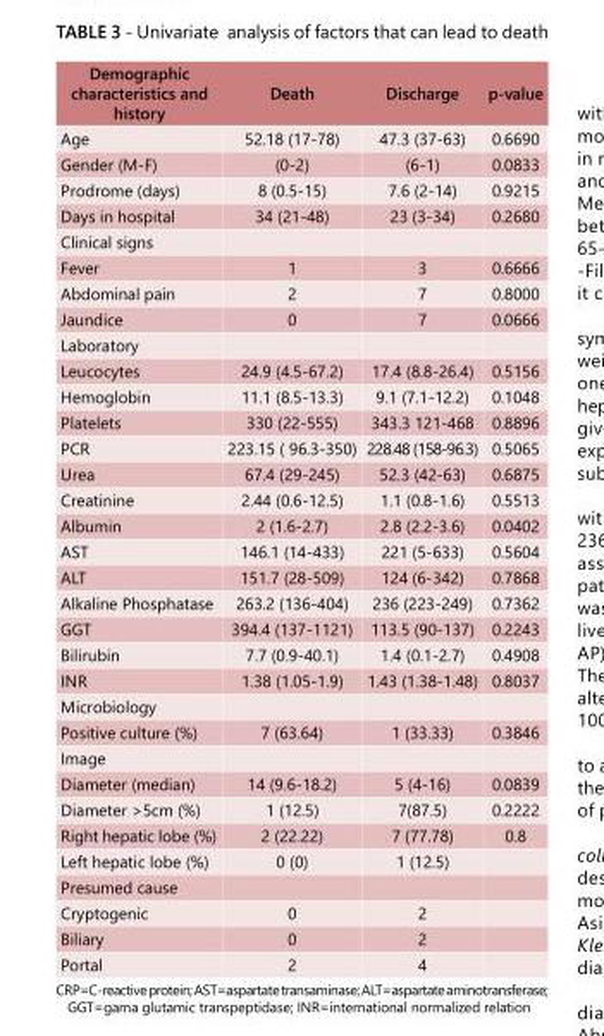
<table><tbody><tr><td>Demographic characteristics and history</td><td>Death</td><td>Discharge</td><td>p-value</td></tr><tr><td>Age</td><td>52.18 (17-78)</td><td>47.3 (37-63)</td><td>0.6690</td></tr><tr><td>Gender (M-F)</td><td>(0-2)</td><td>(6-1)</td><td>0.0833</td></tr><tr><td>Prodrome (days)</td><td>8 (0.5-15)</td><td>7.6 (2-14)</td><td>0.9215</td></tr><tr><td>Days in hospital</td><td>34 (21-48)</td><td>23 (3-34)</td><td>0.2680</td></tr><tr><td colspan="4">Clinical signs</td></tr><tr><td>Fever</td><td>1</td><td>3</td><td>0.6666</td></tr><tr><td>Abdominal pain</td><td>2</td><td>7</td><td>0.8000</td></tr><tr><td>Jaundice</td><td>0</td><td>7</td><td>0.0666</td></tr><tr><td colspan="4">Laboratory</td></tr><tr><td>Leucocytes</td><td>24.9 (4.5-67.2)</td><td>17.4 (8.8-26.4)</td><td>0.5156</td></tr><tr><td>Hemoglobin</td><td>11.1 (8.5-13.3)</td><td>9.1 (7.1-12.2)</td><td>0.1048</td></tr><tr><td>Platelets</td><td>330 (22-555)</td><td>343.3 121-468</td><td>0.8896</td></tr><tr><td>PCR</td><td>223.15 ( 96.3-350)</td><td>228.48 (158-96.3)</td><td>0.5065</td></tr><tr><td>Urea</td><td>67.4 (29-245)</td><td>52.3 (42-63)</td><td>0.6875</td></tr><tr><td>Creatinine</td><td>2.44 (0.6-12.5)</td><td>1.1 (0.8-1.6)</td><td>0.5513</td></tr><tr><td>Albumin</td><td>2 (1.6-2.7)</td><td>2.8 (2.2-3.6)</td><td>0.0402</td></tr><tr><td>AST</td><td>146.1 (14-433)</td><td>221 (5-633)</td><td>0.5604</td></tr><tr><td>ALT</td><td>151.7 (28-509)</td><td>124 (6-342)</td><td>0.7868</td></tr><tr><td>Alkaline Phosphatase</td><td>263.2 (136-404)</td><td>236 (223-249)</td><td>0.7362</td></tr><tr><td>GGT</td><td>394.4 (137-1121)</td><td>113.5 (90-137)</td><td>0.2243</td></tr><tr><td>Bilirubin</td><td>7.7 (0.9-40.1)</td><td>1.4 (0.1-2.7)</td><td>0.4908</td></tr><tr><td>INR</td><td>1.38 (1.05-1.9)</td><td>1.43 (1.38-1.48)</td><td>0.8037</td></tr><tr><td colspan="4">Microbiology</td></tr><tr><td>Positive culture (%)</td><td>7 (63.64)</td><td>1 (33.33)</td><td>0.3846</td></tr><tr><td colspan="4">Image</td></tr><tr><td>Diameter (median)</td><td>14 (9.6-18.2)</td><td>5 (4-16)</td><td>0.0839</td></tr><tr><td>Diameter &gt;5cm (%)</td><td>1 (12.5)</td><td>7(87.5)</td><td>0.2222</td></tr><tr><td>Right hepatic lobe (%)</td><td>2 (22.22)</td><td>7 (77.78)</td><td>0.8</td></tr><tr><td>Left hepatic lobe (%)</td><td>0 (0)</td><td>1 (12.5)</td><td></td></tr><tr><td colspan="4">Presumed cause</td></tr><tr><td>Cryptogenic</td><td>0</td><td>2</td><td></td></tr><tr><td>Biliary</td><td>0</td><td>2</td><td></td></tr><tr><td>Portal</td><td>2</td><td>4</td><td></td></tr></tbody></table>